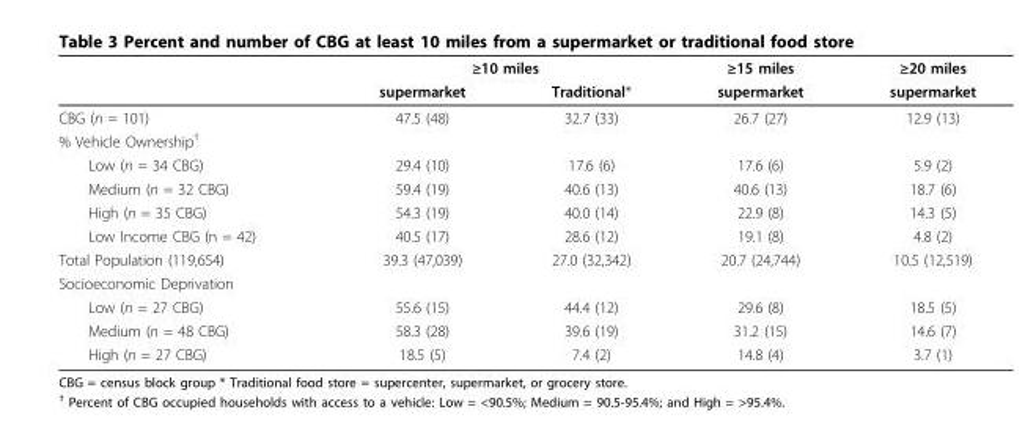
<table><thead><tr><td rowspan="2"></td><td colspan="2">≥10 miles</td><td rowspan="2">≥15 miles supermarket</td><td rowspan="2">≥20 miles supermarket</td></tr><tr><td>supermarket</td><td>Traditional*</td></tr></thead><tbody><tr><td>CBG (n = 101)</td><td>47.5 (48)</td><td>32.7 (33)</td><td>26.7 (27)</td><td>12.9 (13)</td></tr><tr><td colspan="5">% Vehicle Ownership<sup>†</sup></td></tr><tr><td>Low (n = 34 CBG)</td><td>29.4 (10)</td><td>17.6 (6)</td><td>17.6 (6)</td><td>5.9 (2)</td></tr><tr><td>Medium (n = 32 CBG)</td><td>59.4 (19)</td><td>40.6 (13)</td><td>40.6 (13)</td><td>18.7 (6)</td></tr><tr><td>High (n = 35 CBG)</td><td>54.3 (19)</td><td>40.0 (14)</td><td>22.9 (8)</td><td>14.3 (5)</td></tr><tr><td>Low Income CBG (n = 42)</td><td>40.5 (17)</td><td>28.6 (12)</td><td>19.1 (8)</td><td>4.8 (2)</td></tr><tr><td>Total Population (119,654)</td><td>39.3 (47,039)</td><td>27.0 (32,342)</td><td>20.7 (24,744)</td><td>10.5 (12,519)</td></tr><tr><td colspan="5">Socioeconomic Deprivation</td></tr><tr><td>Low (n = 27 CBG)</td><td>55.6 (15)</td><td>44.4 (12)</td><td>29.6 (8)</td><td>18.5 (5)</td></tr><tr><td>Medium (n = 48 CBG)</td><td>58.3 (28)</td><td>39.6 (19)</td><td>31.2 (15)</td><td>14.6 (7)</td></tr><tr><td>High (n = 27 CBG)</td><td>18.5 (5)</td><td>7.4 (2)</td><td>14.8 (4)</td><td>3.7 (1)</td></tr></tbody></table>